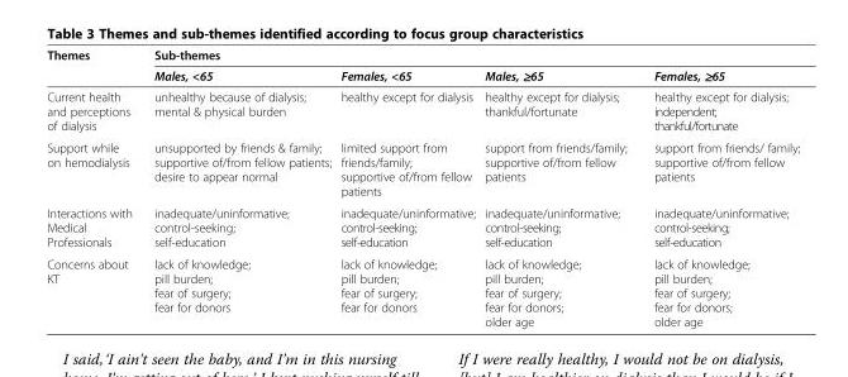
<table><thead><tr><td rowspan="2">Themes</td><td colspan="4">Sub-themes</td></tr><tr><td>Males, &lt;65</td><td>Females, &lt;65</td><td>Males, ≥65</td><td>Females, ≥65</td></tr></thead><tbody><tr><td>Current health and perceptions of dialysis</td><td>unhealthy because of dialysis; mental &amp; physical burden</td><td>healthy except for dialysis</td><td>healthy except for dialysis; thankful/fortunate</td><td>healthy except for dialysis; independent; thankful/fortunate</td></tr><tr><td>Support while on hemodialysis</td><td>unsupported by friends &amp; family; supportive of/from fellow patients; desire to appear normal</td><td>limited support from friends/family; supportive of/from fellow patients</td><td>support from friends/family; supportive of/from fellow patients</td><td>support from friends/ family; supportive of/from fellow patients</td></tr><tr><td>Interactions with Medical Professionals</td><td>inadequate/uninformative; control-seeking; self-education</td><td>inadequate/uninformative; control-seeking; self-education</td><td>inadequate/uninformative; control-seeking; self-education</td><td>inadequate/uninformative; control-seeking; self-education</td></tr><tr><td>Concerns about KT</td><td>lack of knowledge; pill burden; fear of surgery; fear for donors</td><td>lack of knowledge; pill burden; fear of surgery; fear for donors</td><td>lack of knowledge; pill burden; fear of surgery; fear for donors; older age</td><td>lack of knowledge; pill burden; fear of surgery; fear for donors; older age</td></tr></tbody></table>